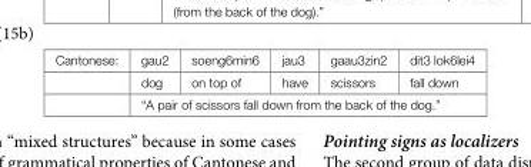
<table><tbody><tr><td rowspan="3">Cantonese:</td><td>gau2</td><td>soeng6min6</td><td>jau3</td><td>gaau3zin2</td><td>dit3 lok6lei4</td></tr><tr><td>dog</td><td>on top of</td><td>have</td><td>scissors</td><td>fall down</td></tr><tr><td colspan="5">“A pair of scissors fall down from the back of the dog.”</td></tr></tbody></table>